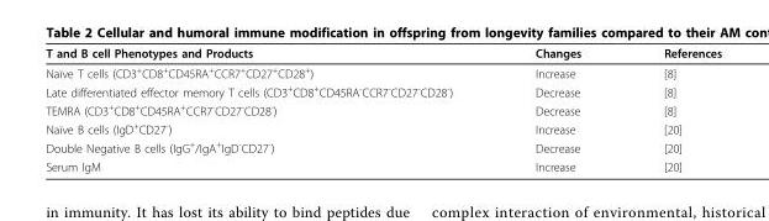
<table><thead><tr><td>T and B cell Phenotypes and Products</td><td>Changes</td><td>References</td></tr></thead><tbody><tr><td>Naïve T cells (CD3<sup>+</sup>CD8<sup>+</sup>CD45RA<sup>+</sup>CCR7<sup>+</sup>CD27<sup>+</sup>CD28<sup>+</sup>)</td><td>Increase</td><td>[8]</td></tr><tr><td>Late differentiated effector memory T cells (CD3<sup>+</sup>CD8<sup>+</sup>CD45RA<sup>-</sup>CCR7<sup>-</sup>CD27<sup>-</sup>CD28<sup>-</sup>)</td><td>Decrease</td><td>[8]</td></tr><tr><td>TEMRA (CD3<sup>+</sup>CD8<sup>+</sup>CD45RA<sup>+</sup>CCR7<sup>-</sup>CD27<sup>-</sup>CD28<sup>-</sup>)</td><td>Decrease</td><td>[8]</td></tr><tr><td>Naïve B cells (IgD<sup>+</sup>CD27<sup>-</sup>)</td><td>Increase</td><td>[20]</td></tr><tr><td>Double Negative B cells (IgG<sup>+</sup>/IgA<sup>+</sup>IgD<sup>-</sup>CD27<sup>-</sup>)</td><td>Decrease</td><td>[20]</td></tr><tr><td>Serum IgM</td><td>Increase</td><td>[20]</td></tr></tbody></table>